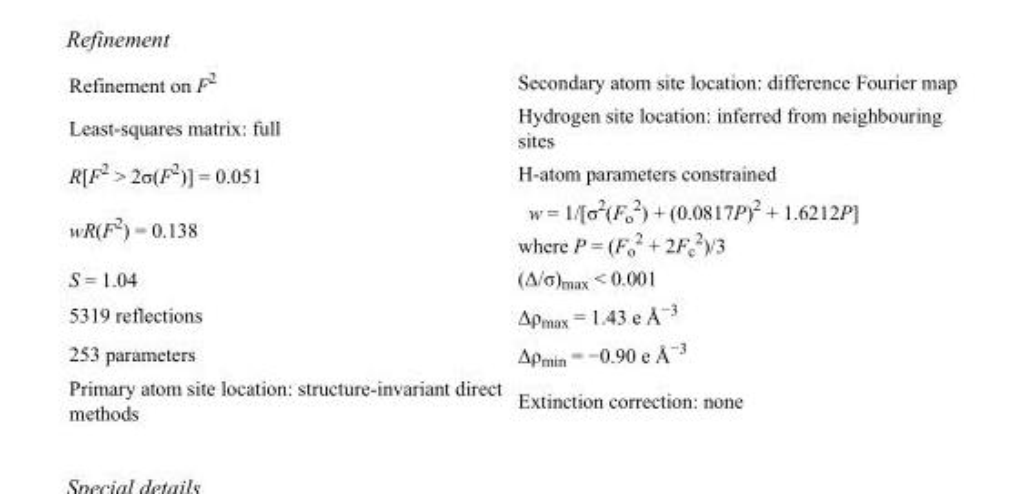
<table><tbody><tr><td>Refinement on F<sup>2</sup></td><td>Secondary atom site location: difference Fourier map</td></tr><tr><td>Least-squares matrix: full</td><td>Hydrogen site location: inferred from neighbouring sites</td></tr><tr><td>R[F<sup>2</sup> &gt; 2σ(F<sup>2</sup>)] = 0.051</td><td>H-atom parameters constrained</td></tr><tr><td>wR(F<sup>2</sup>) = 0.138</td><td>w = 1/[σ<sup>2</sup>(F<sub>o</sub> <sup>2</sup>) + (0.0817P)<sup>2</sup> + 1.6212P] where P = (F<sub>o</sub> <sup>2</sup> + 2F<sub>c</sub> <sup>2</sup>)/3</td></tr><tr><td>S = 1.04</td><td>(Δ/σ)<sub>max</sub> &lt; 0.001</td></tr><tr><td>5319 reflections</td><td>Δρ<sub>max</sub> = 1.43 e Å<sup>−3</sup></td></tr><tr><td>253 parameters</td><td>Δρ<sub>min</sub> = −0.90 e Å<sup>−3</sup></td></tr><tr><td>Primary atom site location: structure-invariant direct methods</td><td>Extinction correction: none</td></tr></tbody></table>